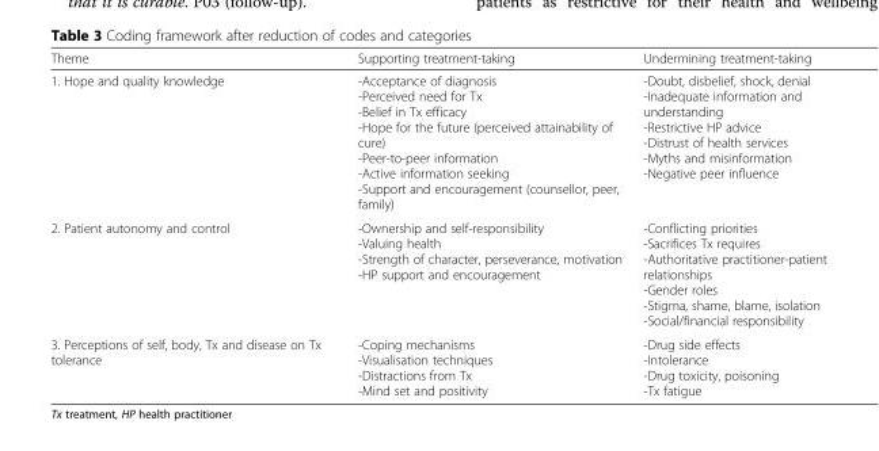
<table><thead><tr><td>Theme</td><td>Supporting treatment-taking</td><td>Undermining treatment-taking</td></tr></thead><tbody><tr><td>1. Hope and quality knowledge</td><td>-Acceptance of diagnosis -Perceived need for Tx -Belief in Tx efficacy -Hope for the future (perceived attainability of cure) -Peer-to-peer information -Active information seeking -Support and encouragement (counsellor, peer, family)</td><td>-Doubt, disbelief, shock, denial -Inadequate information and understanding -Restrictive HP advice -Distrust of health services -Myths and misinformation -Negative peer influence</td></tr><tr><td>2. Patient autonomy and control</td><td>-Ownership and self-responsibility -Valuing health -Strength of character, perseverance, motivation -HP support and encouragement</td><td>-Conflicting priorities -Sacrifices Tx requires -Authoritative practitioner-patient relationships -Gender roles -Stigma, shame, blame, isolation -Social/financial responsibility</td></tr><tr><td>3. Perceptions of self, body, Tx and disease on Tx tolerance</td><td>-Coping mechanisms -Visualisation techniques -Distractions from Tx -Mind set and positivity</td><td>-Drug side effects -Intolerance -Drug toxicity, poisoning -Tx fatigue</td></tr></tbody></table>